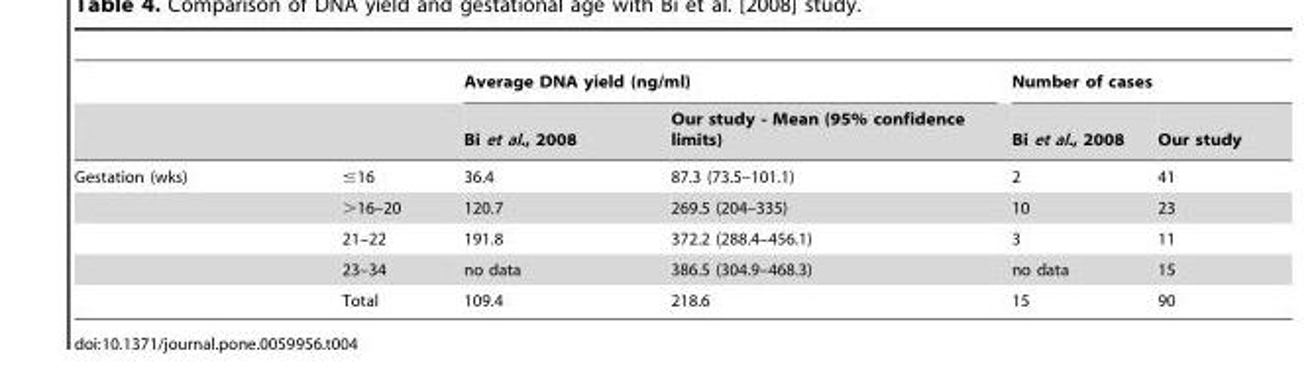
<table><thead><tr><td rowspan="2"></td><td rowspan="2"></td><td colspan="2">Average DNA yield (ng/ml)</td><td colspan="2">Number of cases</td></tr><tr><td>Bi et al., 2008</td><td>Our study - Mean (95% confidence limits)</td><td>Bi et al., 2008</td><td>Our study</td></tr></thead><tbody><tr><td rowspan="5">Gestation (wks)</td><td>≤16</td><td>36.4</td><td>87.3 (73.5–101.1)</td><td>2</td><td>41</td></tr><tr><td>&gt;16–20</td><td>120.7</td><td>269.5 (204–335)</td><td>10</td><td>23</td></tr><tr><td>21–22</td><td>191.8</td><td>372.2 (288.4–456.1)</td><td>3</td><td>11</td></tr><tr><td>23–34</td><td>no data</td><td>386.5 (304.9–468.3)</td><td>no data</td><td>15</td></tr><tr><td>Total</td><td>109.4</td><td>218.6</td><td>15</td><td>90</td></tr></tbody></table>